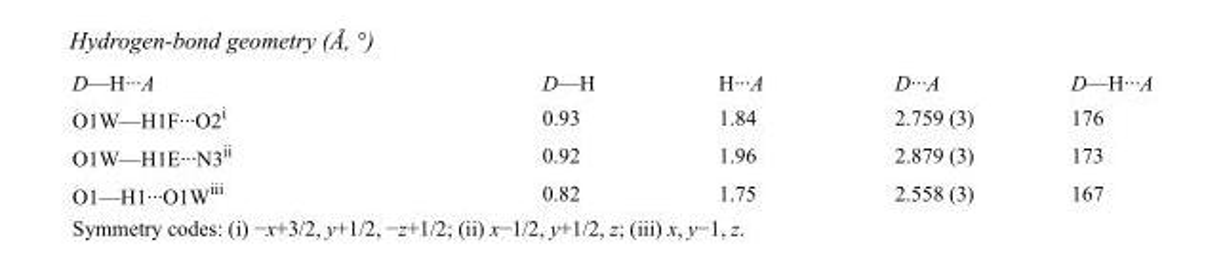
<table><tbody><tr><td>D—H···A</td><td>D—H</td><td>H···A</td><td>D···A</td><td>D—H···A</td></tr><tr><td>O1W—H1F···O2<sup>i</sup></td><td>0.93</td><td>1.84</td><td>2.759 (3)</td><td>176</td></tr><tr><td>O1W—H1E···N3<sup>ii</sup></td><td>0.92</td><td>1.96</td><td>2.879 (3)</td><td>173</td></tr><tr><td>O1—H1···O1W<sup>iii</sup></td><td>0.82</td><td>1.75</td><td>2.558 (3)</td><td>167</td></tr></tbody></table>